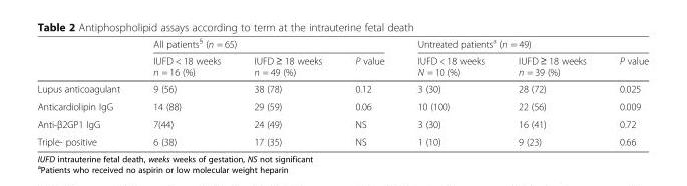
<table><thead><tr><td rowspan="2"></td><td colspan="3">All patients<sup>§</sup> (n = 65)</td><td colspan="3">Untreated patients<sup>a</sup> (n = 49)</td></tr><tr><td>IUFD &lt; 18 weeks n = 16 (%)</td><td>IUFD ≥ 18 weeks n = 49 (%)</td><td>P value</td><td>IUFD &lt; 18 weeks N = 10 (%)</td><td>IUFD ≥ 18 weeks n = 39 (%)</td><td>P value</td></tr></thead><tbody><tr><td>Lupus anticoagulant</td><td>9 (56)</td><td>38 (78)</td><td>0.12</td><td>3 (30)</td><td>28 (72)</td><td>0.025</td></tr><tr><td>Anticardiolipin IgG</td><td>14 (88)</td><td>29 (59)</td><td>0.06</td><td>10 (100)</td><td>22 (56)</td><td>0.009</td></tr><tr><td>Anti-β2GP1 IgG</td><td>7(44)</td><td>24 (49)</td><td>NS</td><td>3 (30)</td><td>16 (41)</td><td>0.72</td></tr><tr><td>Triple- positive</td><td>6 (38)</td><td>17 (35)</td><td>NS</td><td>1 (10)</td><td>9 (23)</td><td>0.66</td></tr></tbody></table>